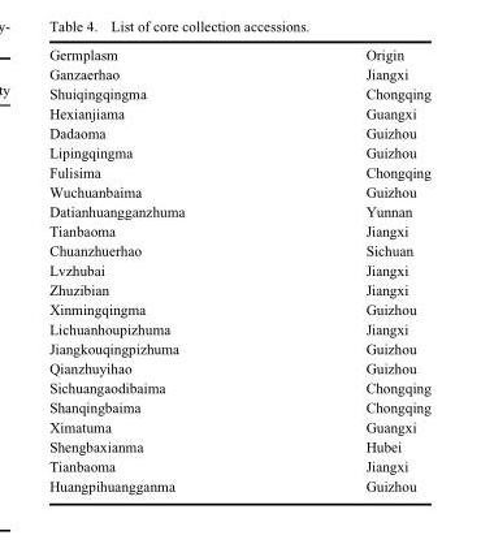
<table><tbody><tr><td>Germplasm</td><td>Origin</td></tr><tr><td>Ganzaerhao</td><td>Jiangxi</td></tr><tr><td>Shuiqingqingma</td><td>Chongqing</td></tr><tr><td>Hexianjiama</td><td>Guangxi</td></tr><tr><td>Dadaoma</td><td>Guizhou</td></tr><tr><td>Lipingqingma</td><td>Guizhou</td></tr><tr><td>Fulisima</td><td>Chongqing</td></tr><tr><td>Wuchuanbaima</td><td>Guizhou</td></tr><tr><td>Datianhuangganzhuma</td><td>Yunnan</td></tr><tr><td>Tianbaoma</td><td>Jiangxi</td></tr><tr><td>Chuanzhuerhao</td><td>Sichuan</td></tr><tr><td>Lvzhubai</td><td>Jiangxi</td></tr><tr><td>Zhuzibian</td><td>Jiangxi</td></tr><tr><td>Xinmingqingma</td><td>Guizhou</td></tr><tr><td>Lichuanhoupizhuma</td><td>Jiangxi</td></tr><tr><td>Jiangkouqingpizhuma</td><td>Guizhou</td></tr><tr><td>Qianzhuyihao</td><td>Guizhou</td></tr><tr><td>Sichuangaodibaima</td><td>Chongqing</td></tr><tr><td>Shanqingbaima</td><td>Chongqing</td></tr><tr><td>Ximatuma</td><td>Guangxi</td></tr><tr><td>Shengbaxianma</td><td>Hubei</td></tr><tr><td>Tianbaoma</td><td>Jiangxi</td></tr><tr><td>Huangpihuangganma</td><td>Guizhou</td></tr></tbody></table>